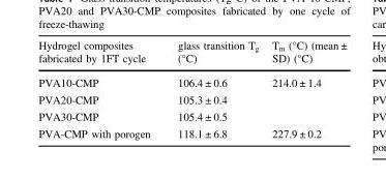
<table><thead><tr><td>Hydrogel composites fabricated by 1FT cycle</td><td>glass transition T<sub>g</sub> (°C)</td><td>T<sub>m</sub> (°C) (mean ± SD) (°C)</td></tr></thead><tbody><tr><td>PVA10-CMP</td><td>106.4 ± 0.6</td><td>214.0 ± 1.4</td></tr><tr><td>PVA20-CMP</td><td>105.3 ± 0.4</td><td></td></tr><tr><td>PVA30-CMP</td><td>105.4 ± 0.5</td><td></td></tr><tr><td>PVA-CMP with porogen</td><td>118.1 ± 6.8</td><td>227.9 ± 0.2</td></tr></tbody></table>